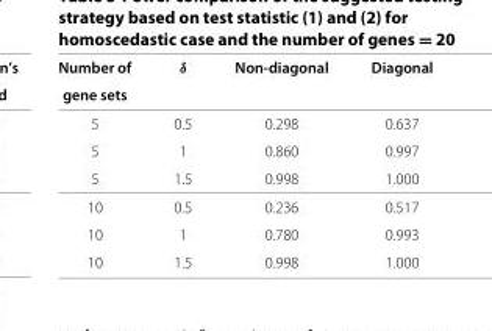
<table><thead><tr><td rowspan="2">Number of gene sets</td><td rowspan="2">δ</td><td rowspan="2">Non-diagonal</td><td rowspan="2">Diagonal</td></tr><tr></tr></thead><tbody><tr><td>5</td><td>0.5</td><td>0.298</td><td>0.637</td></tr><tr><td>5</td><td>1</td><td>0.860</td><td>0.997</td></tr><tr><td>5</td><td>1.5</td><td>0.998</td><td>1.000</td></tr><tr><td>10</td><td>0.5</td><td>0.236</td><td>0.517</td></tr><tr><td>10</td><td>1</td><td>0.780</td><td>0.993</td></tr><tr><td>10</td><td>1.5</td><td>0.998</td><td>1.000</td></tr></tbody></table>